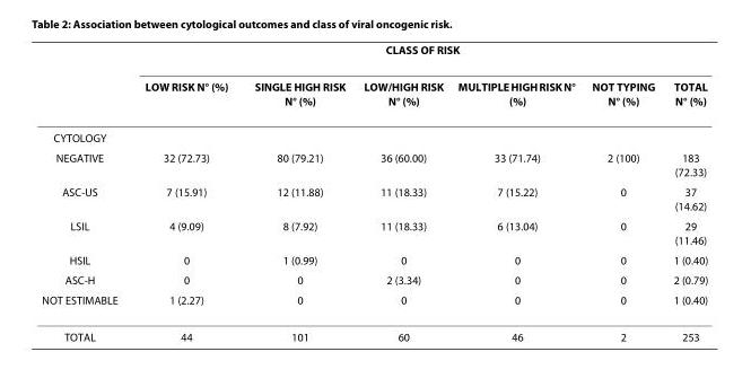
<table><thead><tr><td rowspan="2"></td><td colspan="6">CLASS OF RISK</td></tr><tr><td>LOW RISK N° (%)</td><td>SINGLE HIGH RISK N° (%)</td><td>LOW/HIGH RISK N° (%)</td><td>MULTIPLE HIGH RISK N° (%)</td><td>NOT TYPING N° (%)</td><td>TOTAL N° (%)</td></tr></thead><tbody><tr><td colspan="7">CYTOLOGY</td></tr><tr><td>NEGATIVE</td><td>32 (72.73)</td><td>80 (79.21)</td><td>36 (60.00)</td><td>33 (71.74)</td><td>2 (100)</td><td>183 (72.33)</td></tr><tr><td>ASC-US</td><td>7 (15.91)</td><td>12 (11.88)</td><td>11 (18.33)</td><td>7 (15.22)</td><td>0</td><td>37 (14.62)</td></tr><tr><td>LSIL</td><td>4 (9.09)</td><td>8 (7.92)</td><td>11 (18.33)</td><td>6 (13.04)</td><td>0</td><td>29 (11.46)</td></tr><tr><td>HSIL</td><td>0</td><td>1 (0.99)</td><td>0</td><td>0</td><td>0</td><td>1 (0.40)</td></tr><tr><td>ASC-H</td><td>0</td><td>0</td><td>2 (3.34)</td><td>0</td><td>0</td><td>2 (0.79)</td></tr><tr><td>NOT ESTIMABLE</td><td>1 (2.27)</td><td>0</td><td>0</td><td>0</td><td>0</td><td>1 (0.40)</td></tr><tr><td>TOTAL</td><td>44</td><td>101</td><td>60</td><td>46</td><td>2</td><td>253</td></tr></tbody></table>